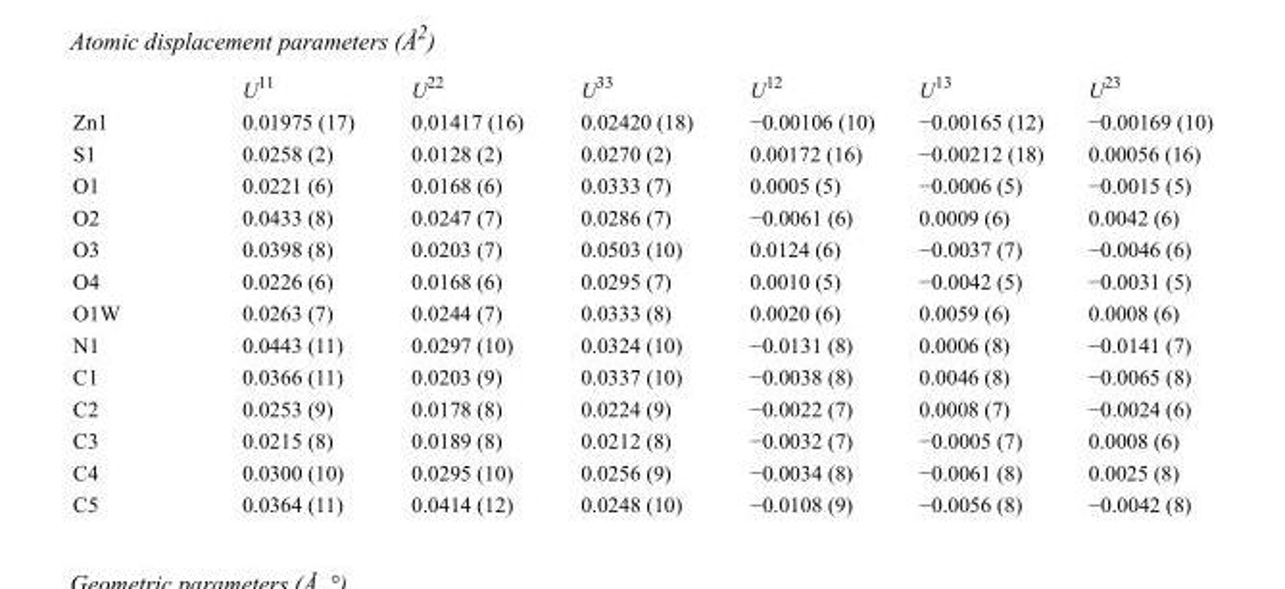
<table><thead><tr><td></td><td>U<sup>11</sup></td><td>U<sup>22</sup></td><td>U<sup>33</sup></td><td>U<sup>12</sup></td><td>U<sup>13</sup></td><td>U<sup>23</sup></td></tr></thead><tbody><tr><td>Zn1</td><td>0.01975 (17)</td><td>0.01417 (16)</td><td>0.02420 (18)</td><td>−0.00106 (10)</td><td>−0.00165 (12)</td><td>−0.00169 (10)</td></tr><tr><td>S1</td><td>0.0258 (2)</td><td>0.0128 (2)</td><td>0.0270 (2)</td><td>0.00172 (16)</td><td>−0.00212 (18)</td><td>0.00056 (16)</td></tr><tr><td>O1</td><td>0.0221 (6)</td><td>0.0168 (6)</td><td>0.0333 (7)</td><td>0.0005 (5)</td><td>−0.0006 (5)</td><td>−0.0015 (5)</td></tr><tr><td>O2</td><td>0.0433 (8)</td><td>0.0247 (7)</td><td>0.0286 (7)</td><td>−0.0061 (6)</td><td>0.0009 (6)</td><td>0.0042 (6)</td></tr><tr><td>O3</td><td>0.0398 (8)</td><td>0.0203 (7)</td><td>0.0503 (10)</td><td>0.0124 (6)</td><td>−0.0037 (7)</td><td>−0.0046 (6)</td></tr><tr><td>O4</td><td>0.0226 (6)</td><td>0.0168 (6)</td><td>0.0295 (7)</td><td>0.0010 (5)</td><td>−0.0042 (5)</td><td>−0.0031 (5)</td></tr><tr><td>O1W</td><td>0.0263 (7)</td><td>0.0244 (7)</td><td>0.0333 (8)</td><td>0.0020 (6)</td><td>0.0059 (6)</td><td>0.0008 (6)</td></tr><tr><td>N1</td><td>0.0443 (11)</td><td>0.0297 (10)</td><td>0.0324 (10)</td><td>−0.0131 (8)</td><td>0.0006 (8)</td><td>−0.0141 (7)</td></tr><tr><td>C1</td><td>0.0366 (11)</td><td>0.0203 (9)</td><td>0.0337 (10)</td><td>−0.0038 (8)</td><td>0.0046 (8)</td><td>−0.0065 (8)</td></tr><tr><td>C2</td><td>0.0253 (9)</td><td>0.0178 (8)</td><td>0.0224 (9)</td><td>−0.0022 (7)</td><td>0.0008 (7)</td><td>−0.0024 (6)</td></tr><tr><td>C3</td><td>0.0215 (8)</td><td>0.0189 (8)</td><td>0.0212 (8)</td><td>−0.0032 (7)</td><td>−0.0005 (7)</td><td>0.0008 (6)</td></tr><tr><td>C4</td><td>0.0300 (10)</td><td>0.0295 (10)</td><td>0.0256 (9)</td><td>−0.0034 (8)</td><td>−0.0061 (8)</td><td>0.0025 (8)</td></tr><tr><td>C5</td><td>0.0364 (11)</td><td>0.0414 (12)</td><td>0.0248 (10)</td><td>−0.0108 (9)</td><td>−0.0056 (8)</td><td>−0.0042 (8)</td></tr></tbody></table>